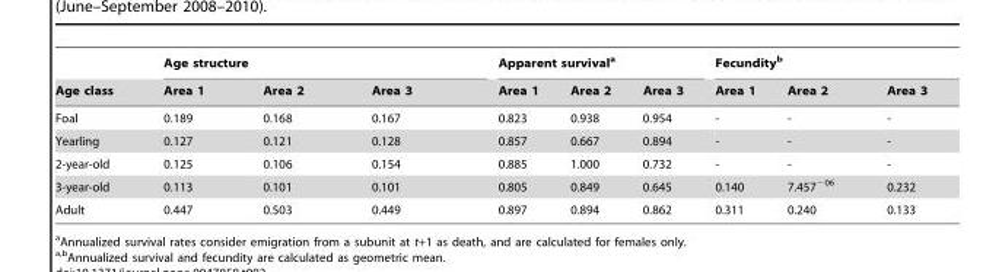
<table><thead><tr><td rowspan="2">Age class</td><td colspan="3">Age structure</td><td colspan="3">Apparent survival<sup>a</sup></td><td colspan="3">Fecundity<sup>b</sup></td></tr><tr><td>Area 1</td><td>Area 2</td><td>Area 3</td><td>Area 1</td><td>Area 2</td><td>Area 3</td><td>Area 1</td><td>Area 2</td><td>Area 3</td></tr></thead><tbody><tr><td>Foal</td><td>0.189</td><td>0.168</td><td>0.167</td><td>0.823</td><td>0.938</td><td>0.954</td><td>-</td><td>-</td><td>-</td></tr><tr><td>Yearling</td><td>0.127</td><td>0.121</td><td>0.128</td><td>0.857</td><td>0.667</td><td>0.894</td><td>-</td><td>-</td><td>-</td></tr><tr><td>2-year-old</td><td>0.125</td><td>0.106</td><td>0.154</td><td>0.885</td><td>1.000</td><td>0.732</td><td>-</td><td>-</td><td>-</td></tr><tr><td>3-year-old</td><td>0.113</td><td>0.101</td><td>0.101</td><td>0.805</td><td>0.849</td><td>0.645</td><td>0.140</td><td>7.457<sup>−06</sup></td><td>0.232</td></tr><tr><td>Adult</td><td>0.447</td><td>0.503</td><td>0.449</td><td>0.897</td><td>0.894</td><td>0.862</td><td>0.311</td><td>0.240</td><td>0.133</td></tr></tbody></table>